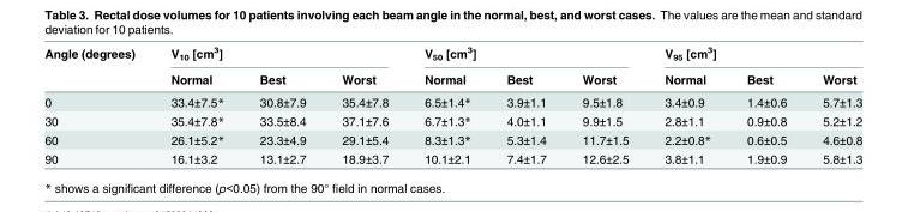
<table><thead><tr><td rowspan="2">Angle (degrees)</td><td colspan="3">V<sub>10</sub> [cm<sup>3</sup>]</td><td colspan="3">V<sub>50</sub> [cm<sup>3</sup>]</td><td colspan="3">V<sub>95</sub> [cm<sup>3</sup>]</td></tr><tr><td>Normal</td><td>Best</td><td>Worst</td><td>Normal</td><td>Best</td><td>Worst</td><td>Normal</td><td>Best</td><td>Worst</td></tr></thead><tbody><tr><td>0</td><td>33.4±7.5*</td><td>30.8±7.9</td><td>35.4±7.8</td><td>6.5±1.4*</td><td>3.9±1.1</td><td>9.5±1.8</td><td>3.4±0.9</td><td>1.4±0.6</td><td>5.7±1.3</td></tr><tr><td>30</td><td>35.4±7.8*</td><td>33.5±8.4</td><td>37.1±7.6</td><td>6.7±1.3*</td><td>4.0±1.1</td><td>9.9±1.5</td><td>2.8±1.1</td><td>0.9±0.8</td><td>5.2±1.2</td></tr><tr><td>60</td><td>26.1±5.2*</td><td>23.3±4.9</td><td>29.1±5.4</td><td>8.3±1.3*</td><td>5.3±1.4</td><td>11.7±1.5</td><td>2.2±0.8*</td><td>0.6±0.5</td><td>4.6±0.8</td></tr><tr><td>90</td><td>16.1±3.2</td><td>13.1±2.7</td><td>18.9±3.7</td><td>10.1±2.1</td><td>7.4±1.7</td><td>12.6±2.5</td><td>3.8±1.1</td><td>1.9±0.9</td><td>5.8±1.3</td></tr></tbody></table>